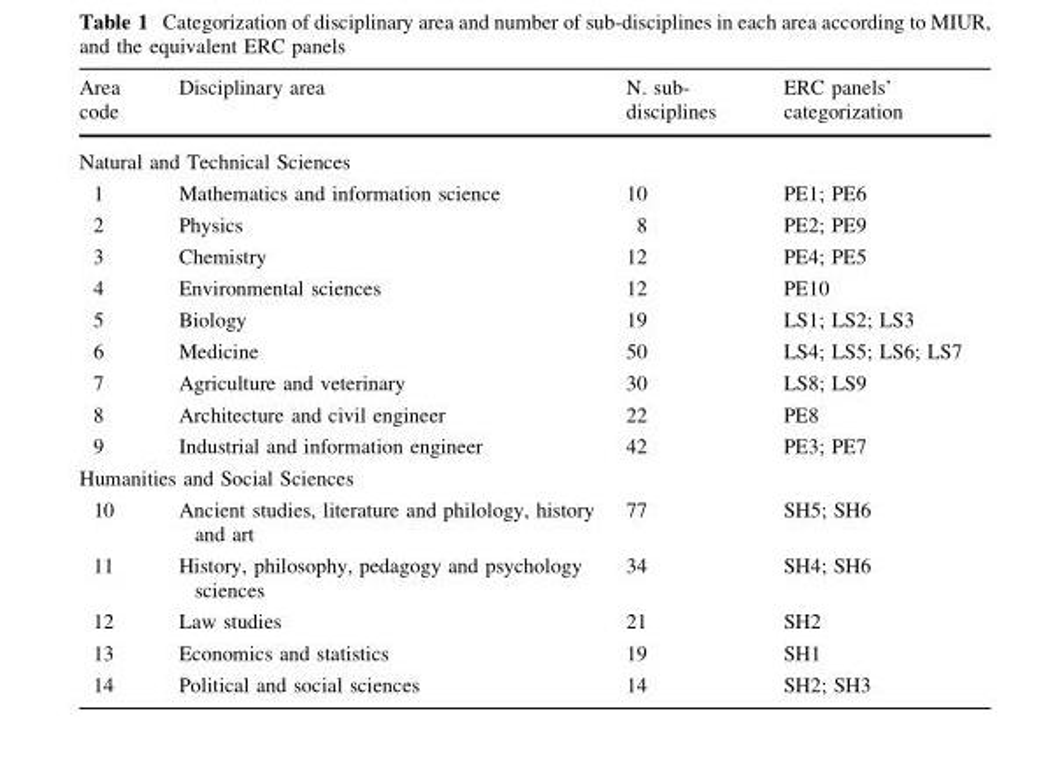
<table><thead><tr><td>Area code</td><td>Disciplinary area</td><td>N. sub- disciplines</td><td>ERC panels’ categorization</td></tr></thead><tbody><tr><td colspan="4">Natural and Technical Sciences</td></tr><tr><td>1</td><td>Mathematics and information science</td><td>10</td><td>PE1; PE6</td></tr><tr><td>2</td><td>Physics</td><td>8</td><td>PE2; PE9</td></tr><tr><td>3</td><td>Chemistry</td><td>12</td><td>PE4; PE5</td></tr><tr><td>4</td><td>Environmental sciences</td><td>12</td><td>PE10</td></tr><tr><td>5</td><td>Biology</td><td>19</td><td>LS1; LS2; LS3</td></tr><tr><td>6</td><td>Medicine</td><td>50</td><td>LS4; LS5; LS6; LS7</td></tr><tr><td>7</td><td>Agriculture and veterinary</td><td>30</td><td>LS8; LS9</td></tr><tr><td>8</td><td>Architecture and civil engineer</td><td>22</td><td>PE8</td></tr><tr><td>9</td><td>Industrial and information engineer</td><td>42</td><td>PE3; PE7</td></tr><tr><td colspan="4">Humanities and Social Sciences</td></tr><tr><td>10</td><td>Ancient studies, literature and philology, history and art</td><td>77</td><td>SH5; SH6</td></tr><tr><td>11</td><td>History, philosophy, pedagogy and psychology sciences</td><td>34</td><td>SH4; SH6</td></tr><tr><td>12</td><td>Law studies</td><td>21</td><td>SH2</td></tr><tr><td>13</td><td>Economics and statistics</td><td>19</td><td>SH1</td></tr><tr><td>14</td><td>Political and social sciences</td><td>14</td><td>SH2; SH3</td></tr></tbody></table>